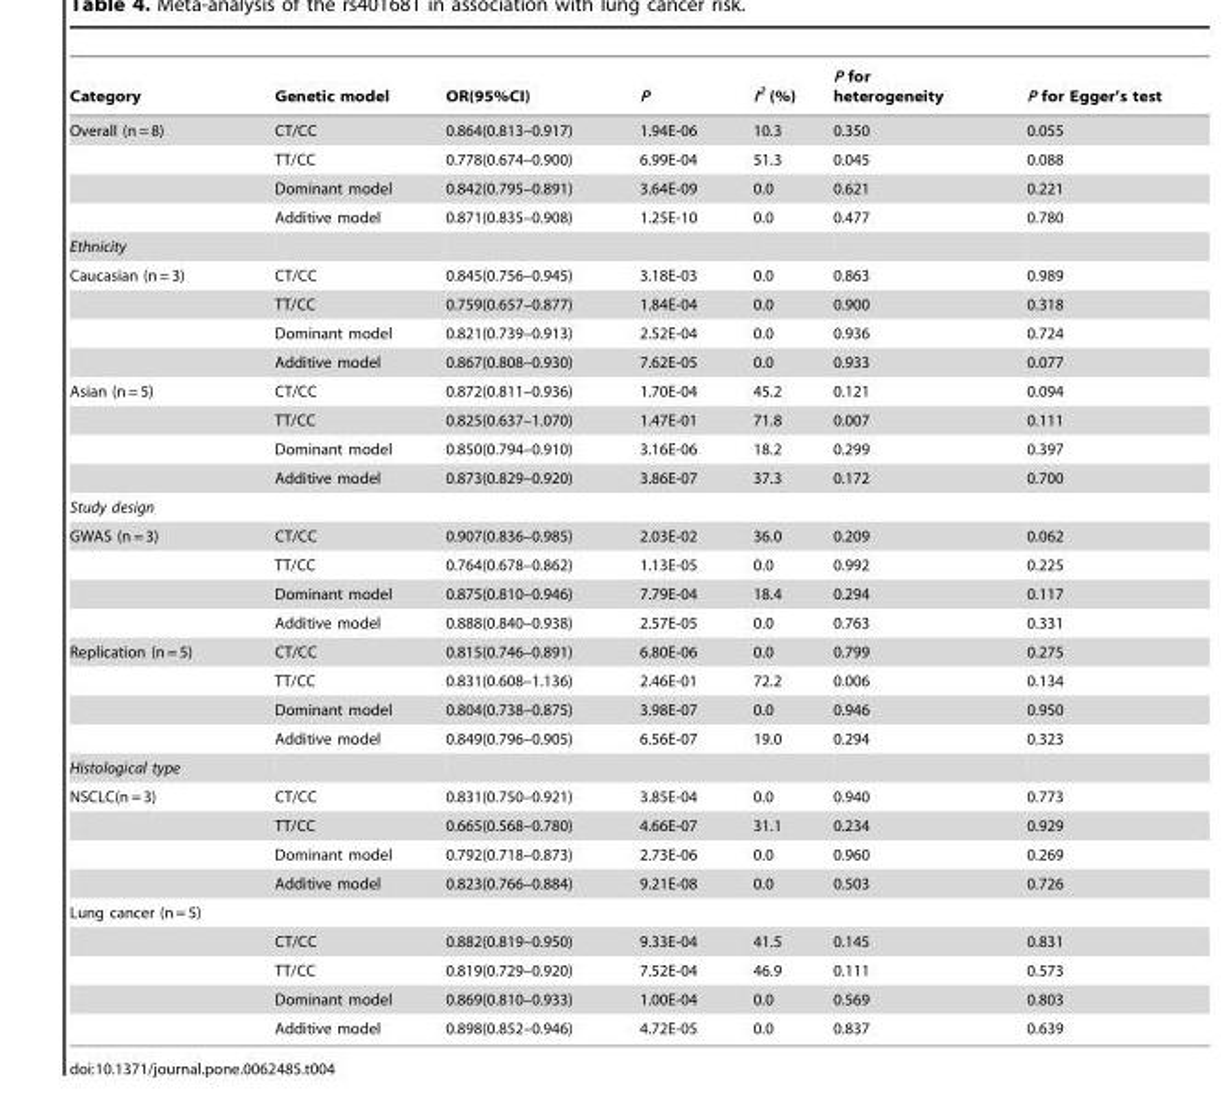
<table><thead><tr><td>Category</td><td>Genetic model</td><td>OR(95%CI)</td><td>P</td><td>I<sup>2</sup> (%)</td><td>P for heterogeneity</td><td>P for Egger’s test</td></tr></thead><tbody><tr><td rowspan="4">Overall (n = 8)</td><td>CT/CC</td><td>0.864(0.813–0.917)</td><td>1.94E-06</td><td>10.3</td><td>0.350</td><td>0.055</td></tr><tr><td>TT/CC</td><td>0.778(0.674–0.900)</td><td>6.99E-04</td><td>51.3</td><td>0.045</td><td>0.088</td></tr><tr><td>Dominant model</td><td>0.842(0.795–0.891)</td><td>3.64E-09</td><td>0.0</td><td>0.621</td><td>0.221</td></tr><tr><td>Additive model</td><td>0.871(0.835–0.908)</td><td>1.25E-10</td><td>0.0</td><td>0.477</td><td>0.780</td></tr><tr><td colspan="7">Ethnicity</td></tr><tr><td rowspan="4">Caucasian (n = 3)</td><td>CT/CC</td><td>0.845(0.756–0.945)</td><td>3.18E-03</td><td>0.0</td><td>0.863</td><td>0.989</td></tr><tr><td>TT/CC</td><td>0.759(0.657–0.877)</td><td>1.84E-04</td><td>0.0</td><td>0.900</td><td>0.318</td></tr><tr><td>Dominant model</td><td>0.821(0.739–0.913)</td><td>2.52E-04</td><td>0.0</td><td>0.936</td><td>0.724</td></tr><tr><td>Additive model</td><td>0.867(0.808–0.930)</td><td>7.62E-05</td><td>0.0</td><td>0.933</td><td>0.077</td></tr><tr><td rowspan="4">Asian (n = 5)</td><td>CT/CC</td><td>0.872(0.811–0.936)</td><td>1.70E-04</td><td>45.2</td><td>0.121</td><td>0.094</td></tr><tr><td>TT/CC</td><td>0.825(0.637–1.070)</td><td>1.47E-01</td><td>71.8</td><td>0.007</td><td>0.111</td></tr><tr><td>Dominant model</td><td>0.850(0.794–0.910)</td><td>3.16E-06</td><td>18.2</td><td>0.299</td><td>0.397</td></tr><tr><td>Additive model</td><td>0.873(0.829–0.920)</td><td>3.86E-07</td><td>37.3</td><td>0.172</td><td>0.700</td></tr><tr><td colspan="7">Study design</td></tr><tr><td rowspan="4">GWAS (n = 3)</td><td>CT/CC</td><td>0.907(0.836–0.985)</td><td>2.03E-02</td><td>36.0</td><td>0.209</td><td>0.062</td></tr><tr><td>TT/CC</td><td>0.764(0.678–0.862)</td><td>1.13E-05</td><td>0.0</td><td>0.992</td><td>0.225</td></tr><tr><td>Dominant model</td><td>0.875(0.810–0.946)</td><td>7.79E-04</td><td>18.4</td><td>0.294</td><td>0.117</td></tr><tr><td>Additive model</td><td>0.888(0.840–0.938)</td><td>2.57E-05</td><td>0.0</td><td>0.763</td><td>0.331</td></tr><tr><td rowspan="4">Replication (n = 5)</td><td>CT/CC</td><td>0.815(0.746–0.891)</td><td>6.80E-06</td><td>0.0</td><td>0.799</td><td>0.275</td></tr><tr><td>TT/CC</td><td>0.831(0.608–1.136)</td><td>2.46E-01</td><td>72.2</td><td>0.006</td><td>0.134</td></tr><tr><td>Dominant model</td><td>0.804(0.738–0.875)</td><td>3.98E-07</td><td>0.0</td><td>0.946</td><td>0.950</td></tr><tr><td>Additive model</td><td>0.849(0.796–0.905)</td><td>6.56E-07</td><td>19.0</td><td>0.294</td><td>0.323</td></tr><tr><td colspan="7">Histological type</td></tr><tr><td rowspan="4">NSCLC(n = 3)</td><td>CT/CC</td><td>0.831(0.750–0.921)</td><td>3.85E-04</td><td>0.0</td><td>0.940</td><td>0.773</td></tr><tr><td>TT/CC</td><td>0.665(0.568–0.780)</td><td>4.66E-07</td><td>31.1</td><td>0.234</td><td>0.929</td></tr><tr><td>Dominant model</td><td>0.792(0.718–0.873)</td><td>2.73E-06</td><td>0.0</td><td>0.960</td><td>0.269</td></tr><tr><td>Additive model</td><td>0.823(0.766–0.884)</td><td>9.21E-08</td><td>0.0</td><td>0.503</td><td>0.726</td></tr><tr><td colspan="7">Lung cancer (n = 5)</td></tr><tr><td></td><td>CT/CC</td><td>0.882(0.819–0.950)</td><td>9.33E-04</td><td>41.5</td><td>0.145</td><td>0.831</td></tr><tr><td></td><td>TT/CC</td><td>0.819(0.729–0.920)</td><td>7.52E-04</td><td>46.9</td><td>0.111</td><td>0.573</td></tr><tr><td></td><td>Dominant model</td><td>0.869(0.810–0.933)</td><td>1.00E-04</td><td>0.0</td><td>0.569</td><td>0.803</td></tr><tr><td></td><td>Additive model</td><td>0.898(0.852–0.946)</td><td>4.72E-05</td><td>0.0</td><td>0.837</td><td>0.639</td></tr></tbody></table>